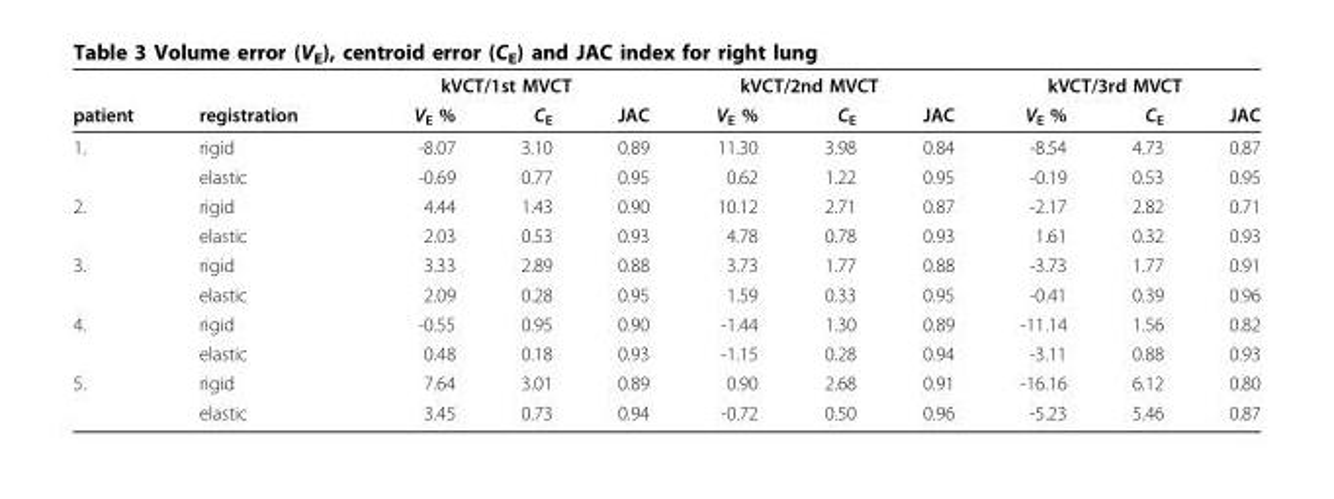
<table><thead><tr><td rowspan="2">patient</td><td rowspan="2">registration</td><td colspan="3">kVCT/1st MVCT</td><td colspan="3">kVCT/2nd MVCT</td><td colspan="3">kVCT/3rd MVCT</td></tr><tr><td>V<sub>E</sub> %</td><td>C<sub>E</sub></td><td>JAC</td><td>V<sub>E</sub> %</td><td>C<sub>E</sub></td><td>JAC</td><td>V<sub>E</sub> %</td><td>C<sub>E</sub></td><td>JAC</td></tr></thead><tbody><tr><td rowspan="2">1.</td><td>rigid</td><td>-8.07</td><td>3.10</td><td>0.89</td><td>11.30</td><td>3.98</td><td>0.84</td><td>-8.54</td><td>4.73</td><td>0.87</td></tr><tr><td>elastic</td><td>-0.69</td><td>0.77</td><td>0.95</td><td>0.62</td><td>1.22</td><td>0.95</td><td>-0.19</td><td>0.53</td><td>0.95</td></tr><tr><td rowspan="2">2.</td><td>rigid</td><td>4.44</td><td>1.43</td><td>0.90</td><td>10.12</td><td>2.71</td><td>0.87</td><td>-2.17</td><td>2.82</td><td>0.71</td></tr><tr><td>elastic</td><td>2.03</td><td>0.53</td><td>0.93</td><td>4.78</td><td>0.78</td><td>0.93</td><td>1.61</td><td>0.32</td><td>0.93</td></tr><tr><td rowspan="2">3.</td><td>rigid</td><td>3.33</td><td>2.89</td><td>0.88</td><td>3.73</td><td>1.77</td><td>0.88</td><td>-3.73</td><td>1.77</td><td>0.91</td></tr><tr><td>elastic</td><td>2.09</td><td>0.28</td><td>0.95</td><td>1.59</td><td>0.33</td><td>0.95</td><td>-0.41</td><td>0.39</td><td>0.96</td></tr><tr><td rowspan="2">4.</td><td>rigid</td><td>-0.55</td><td>0.95</td><td>0.90</td><td>-1.44</td><td>1.30</td><td>0.89</td><td>-11.14</td><td>1.56</td><td>0.82</td></tr><tr><td>elastic</td><td>0.48</td><td>0.18</td><td>0.93</td><td>-1.15</td><td>0.28</td><td>0.94</td><td>-3.11</td><td>0.88</td><td>0.93</td></tr><tr><td rowspan="2">5.</td><td>rigid</td><td>7.64</td><td>3.01</td><td>0.89</td><td>0.90</td><td>2.68</td><td>0.91</td><td>-16.16</td><td>6.12</td><td>0.80</td></tr><tr><td>elastic</td><td>3.45</td><td>0.73</td><td>0.94</td><td>-0.72</td><td>0.50</td><td>0.96</td><td>-5.23</td><td>5.46</td><td>0.87</td></tr></tbody></table>